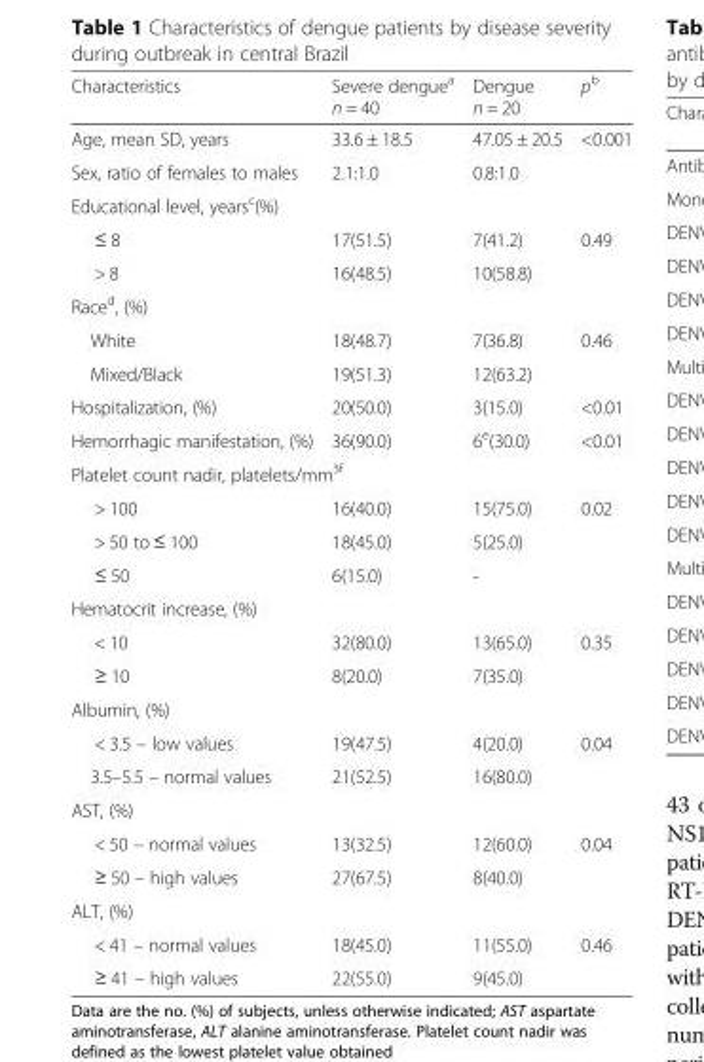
<table><thead><tr><td>Characteristics</td><td>Severe dengue<sup>a</sup> n = 40</td><td>Dengue n = 20</td><td>p<sup>b</sup></td></tr></thead><tbody><tr><td>Age, mean SD, years</td><td>33.6 ± 18.5</td><td>47.05 ± 20.5</td><td>&lt;0.001</td></tr><tr><td>Sex, ratio of females to males</td><td>2.1:1.0</td><td>0.8:1.0</td><td></td></tr><tr><td colspan="4">Educational level, years<sup>c</sup>(%)</td></tr><tr><td>≤ 8</td><td>17(51.5)</td><td>7(41.2)</td><td>0.49</td></tr><tr><td>&gt; 8</td><td>16(48.5)</td><td>10(58.8)</td><td></td></tr><tr><td colspan="4">Race<sup>d</sup>, (%)</td></tr><tr><td>White</td><td>18(48.7)</td><td>7(36.8)</td><td>0.46</td></tr><tr><td>Mixed/Black</td><td>19(51.3)</td><td>12(63.2)</td><td></td></tr><tr><td>Hospitalization, (%)</td><td>20(50.0)</td><td>3(15.0)</td><td>&lt;0.01</td></tr><tr><td>Hemorrhagic manifestation, (%)</td><td>36(90.0)</td><td>6<sup>e</sup>(30.0)</td><td>&lt;0.01</td></tr><tr><td colspan="4">Platelet count nadir, platelets/mm<sup>3f</sup></td></tr><tr><td>&gt; 100</td><td>16(40.0)</td><td>15(75.0)</td><td>0.02</td></tr><tr><td>&gt; 50 to ≤ 100</td><td>18(45.0)</td><td>5(25.0)</td><td></td></tr><tr><td>≤ 50</td><td>6(15.0)</td><td>-</td><td></td></tr><tr><td colspan="4">Hematocrit increase, (%)</td></tr><tr><td>&lt; 10</td><td>32(80.0)</td><td>13(65.0)</td><td>0.35</td></tr><tr><td>≥ 10</td><td>8(20.0)</td><td>7(35.0)</td><td></td></tr><tr><td colspan="4">Albumin, (%)</td></tr><tr><td>&lt; 3.5 – low values</td><td>19(47.5)</td><td>4(20.0)</td><td>0.04</td></tr><tr><td>3.5–5.5 – normal values</td><td>21(52.5)</td><td>16(80.0)</td><td></td></tr><tr><td colspan="4">AST, (%)</td></tr><tr><td>&lt; 50 – normal values</td><td>13(32.5)</td><td>12(60.0)</td><td>0.04</td></tr><tr><td>≥ 50 – high values</td><td>27(67.5)</td><td>8(40.0)</td><td></td></tr><tr><td colspan="4">ALT, (%)</td></tr><tr><td>&lt; 41 – normal values</td><td>18(45.0)</td><td>11(55.0)</td><td>0.46</td></tr><tr><td>≥ 41 – high values</td><td>22(55.0)</td><td>9(45.0)</td><td></td></tr></tbody></table>